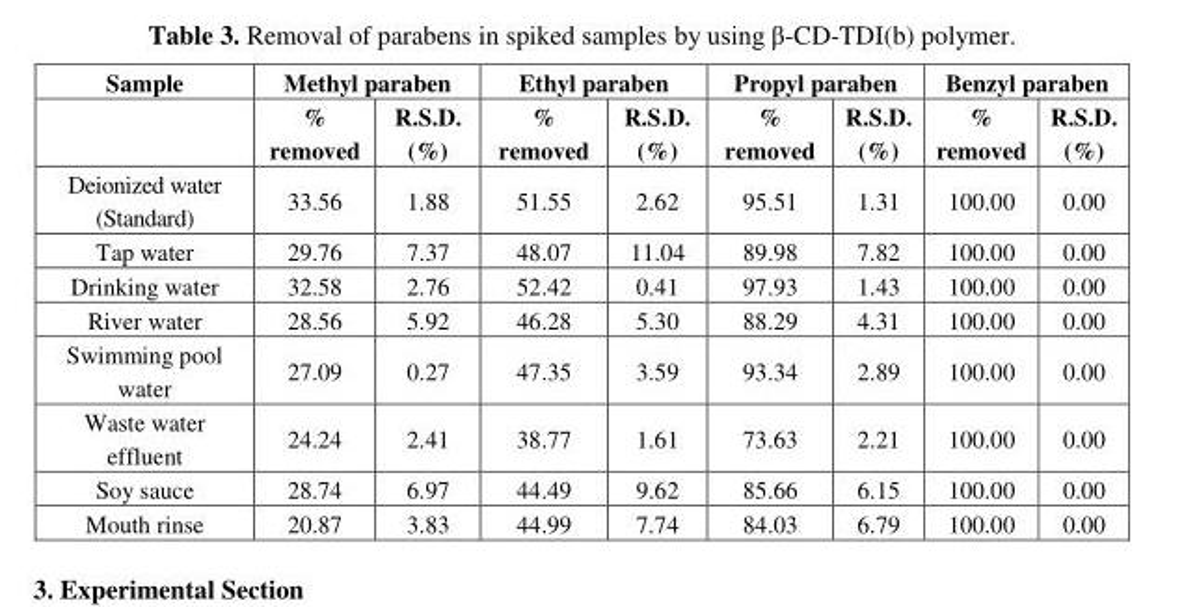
<table><thead><tr><td rowspan="2">Sample</td><td colspan="2">Methyl paraben</td><td colspan="2">Ethyl paraben</td><td colspan="2">Propyl paraben</td><td colspan="2">Benzyl paraben</td></tr><tr><td>% removed</td><td>R.S.D. (%)</td><td>% removed</td><td>R.S.D. (%)</td><td>% removed</td><td>R.S.D. (%)</td><td>% removed</td><td>R.S.D. (%)</td></tr></thead><tbody><tr><td>Deionized water (Standard)</td><td>33.56</td><td>1.88</td><td>51.55</td><td>2.62</td><td>95.51</td><td>1.31</td><td>100.00</td><td>0.00</td></tr><tr><td>Tap water</td><td>29.76</td><td>7.37</td><td>48.07</td><td>11.04</td><td>89.98</td><td>7.82</td><td>100.00</td><td>0.00</td></tr><tr><td>Drinking water</td><td>32.58</td><td>2.76</td><td>52.42</td><td>0.41</td><td>97.93</td><td>1.43</td><td>100.00</td><td>0.00</td></tr><tr><td>River water</td><td>28.56</td><td>5.92</td><td>46.28</td><td>5.30</td><td>88.29</td><td>4.31</td><td>100.00</td><td>0.00</td></tr><tr><td>Swimming pool water</td><td>27.09</td><td>0.27</td><td>47.35</td><td>3.59</td><td>93.34</td><td>2.89</td><td>100.00</td><td>0.00</td></tr><tr><td>Waste water effluent</td><td>24.24</td><td>2.41</td><td>38.77</td><td>1.61</td><td>73.63</td><td>2.21</td><td>100.00</td><td>0.00</td></tr><tr><td>Soy sauce</td><td>28.74</td><td>6.97</td><td>44.49</td><td>9.62</td><td>85.66</td><td>6.15</td><td>100.00</td><td>0.00</td></tr><tr><td>Mouth rinse</td><td>20.87</td><td>3.83</td><td>44.99</td><td>7.74</td><td>84.03</td><td>6.79</td><td>100.00</td><td>0.00</td></tr></tbody></table>